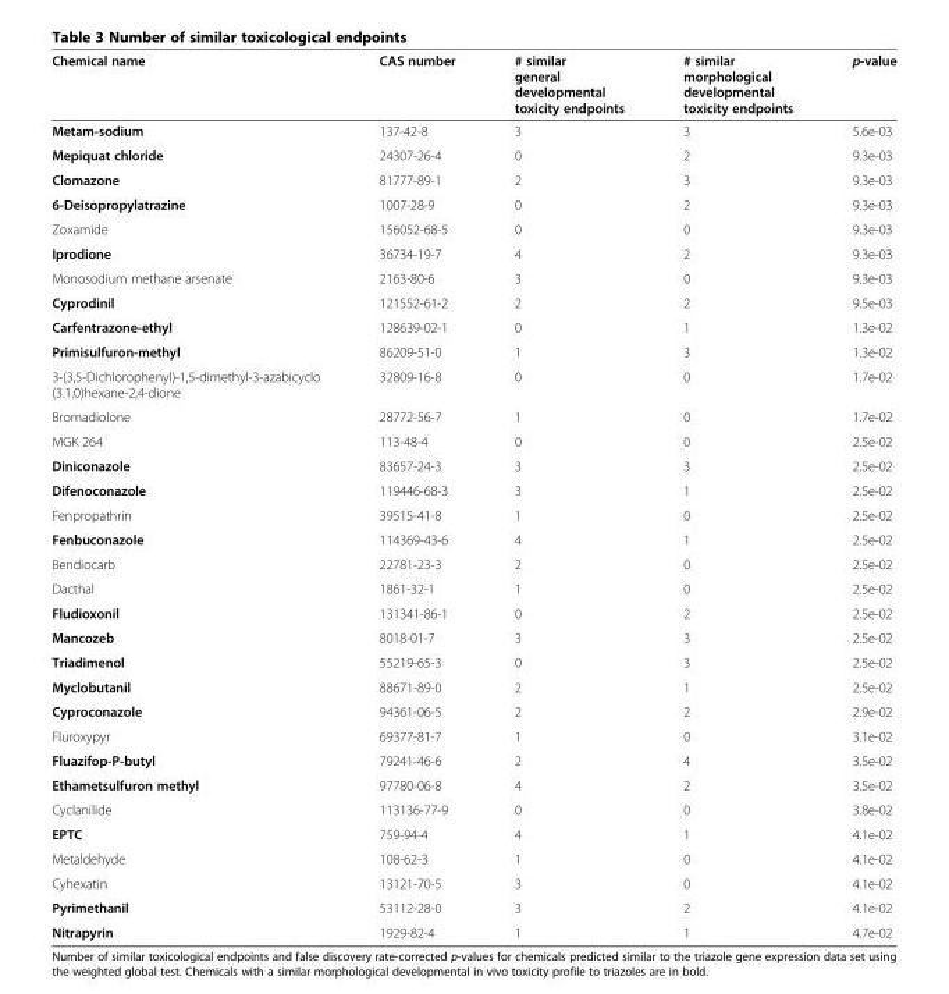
<table><thead><tr><td>Chemical name</td><td>CAS number</td><td># similar general developmental toxicity endpoints</td><td># similar morphological developmental toxicity endpoints</td><td>p-value</td></tr></thead><tbody><tr><td>Metam-sodium</td><td>137-42-8</td><td>3</td><td>3</td><td>5.6e-03</td></tr><tr><td>Mepiquat chloride</td><td>24307-26-4</td><td>0</td><td>2</td><td>9.3e-03</td></tr><tr><td>Clomazone</td><td>81777-89-1</td><td>2</td><td>3</td><td>9.3e-03</td></tr><tr><td>6-Deisopropylatrazine</td><td>1007-28-9</td><td>0</td><td>2</td><td>9.3e-03</td></tr><tr><td>Zoxamide</td><td>156052-68-5</td><td>0</td><td>0</td><td>9.3e-03</td></tr><tr><td>Iprodione</td><td>36734-19-7</td><td>4</td><td>2</td><td>9.3e-03</td></tr><tr><td>Monosodium methane arsenate</td><td>2163-80-6</td><td>3</td><td>0</td><td>9.3e-03</td></tr><tr><td>Cyprodinil</td><td>121552-61-2</td><td>2</td><td>2</td><td>9.5e-03</td></tr><tr><td>Carfentrazone-ethyl</td><td>128639-02-1</td><td>0</td><td>1</td><td>1.3e-02</td></tr><tr><td>Primisulfuron-methyl</td><td>86209-51-0</td><td>1</td><td>3</td><td>1.3e-02</td></tr><tr><td>3-(3,5-Dichlorophenyl)-1,5-dimethyl-3-azabicyclo (3.1.0)hexane-2,4-dione</td><td>32809-16-8</td><td>0</td><td>0</td><td>1.7e-02</td></tr><tr><td>Bromadiolone</td><td>28772-56-7</td><td>1</td><td>0</td><td>1.7e-02</td></tr><tr><td>MGK 264</td><td>113-48-4</td><td>0</td><td>0</td><td>2.5e-02</td></tr><tr><td>Diniconazole</td><td>83657-24-3</td><td>3</td><td>3</td><td>2.5e-02</td></tr><tr><td>Difenoconazole</td><td>119446-68-3</td><td>3</td><td>1</td><td>2.5e-02</td></tr><tr><td>Fenpropathrin</td><td>39515-41-8</td><td>1</td><td>0</td><td>2.5e-02</td></tr><tr><td>Fenbuconazole</td><td>114369-43-6</td><td>4</td><td>1</td><td>2.5e-02</td></tr><tr><td>Bendiocarb</td><td>22781-23-3</td><td>2</td><td>0</td><td>2.5e-02</td></tr><tr><td>Dacthal</td><td>1861-32-1</td><td>1</td><td>0</td><td>2.5e-02</td></tr><tr><td>Fludioxonil</td><td>131341-86-1</td><td>0</td><td>2</td><td>2.5e-02</td></tr><tr><td>Mancozeb</td><td>8018-01-7</td><td>3</td><td>3</td><td>2.5e-02</td></tr><tr><td>Triadimenol</td><td>55219-65-3</td><td>0</td><td>3</td><td>2.5e-02</td></tr><tr><td>Myclobutanil</td><td>88671-89-0</td><td>2</td><td>1</td><td>2.5e-02</td></tr><tr><td>Cyproconazole</td><td>94361-06-5</td><td>2</td><td>2</td><td>2.9e-02</td></tr><tr><td>Fluroxypyr</td><td>69377-81-7</td><td>1</td><td>0</td><td>3.1e-02</td></tr><tr><td>Fluazifop-P-butyl</td><td>79241-46-6</td><td>2</td><td>4</td><td>3.5e-02</td></tr><tr><td>Ethametsulfuron methyl</td><td>97780-06-8</td><td>4</td><td>2</td><td>3.5e-02</td></tr><tr><td>Cyclanilide</td><td>113136-77-9</td><td>0</td><td>0</td><td>3.8e-02</td></tr><tr><td>EPTC</td><td>759-94-4</td><td>4</td><td>1</td><td>4.1e-02</td></tr><tr><td>Metaldehyde</td><td>108-62-3</td><td>1</td><td>0</td><td>4.1e-02</td></tr><tr><td>Cyhexatin</td><td>13121-70-5</td><td>3</td><td>0</td><td>4.1e-02</td></tr><tr><td>Pyrimethanil</td><td>53112-28-0</td><td>3</td><td>2</td><td>4.1e-02</td></tr><tr><td>Nitrapyrin</td><td>1929-82-4</td><td>1</td><td>1</td><td>4.7e-02</td></tr></tbody></table>